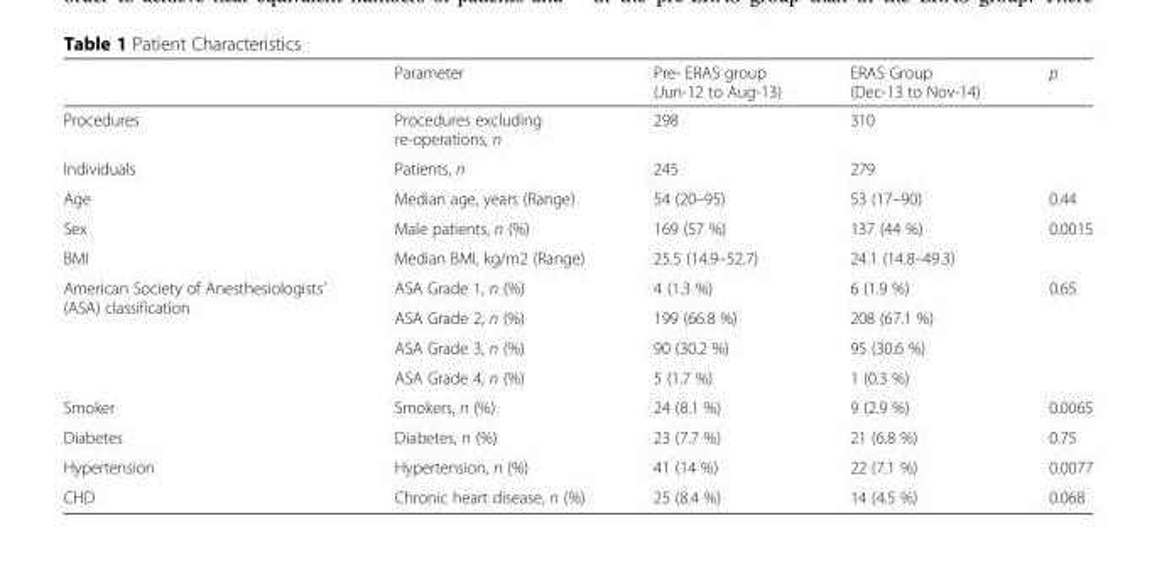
<table><thead><tr><td></td><td>Parameter</td><td>Pre- ERAS group (Jun-12 to Aug-13)</td><td>ERAS Group (Dec-13 to Nov-14)</td><td>p</td></tr></thead><tbody><tr><td>Procedures</td><td>Procedures excluding re-operations, n</td><td>298</td><td>310</td><td></td></tr><tr><td>Individuals</td><td>Patients, n</td><td>245</td><td>279</td><td></td></tr><tr><td>Age</td><td>Median age, years (Range)</td><td>54 (20–95)</td><td>53 (17–90)</td><td>0.44</td></tr><tr><td>Sex</td><td>Male patients, n (%)</td><td>169 (57 %)</td><td>137 (44 %)</td><td>0.0015</td></tr><tr><td>BMI</td><td>Median BMI, kg/m2 (Range)</td><td>25.5 (14.9–52.7)</td><td>24.1 (14.8–49.3)</td><td></td></tr><tr><td rowspan="4">American Society of Anesthesiologists’ (ASA) classification</td><td>ASA Grade 1, n (%)</td><td>4 (1.3 %)</td><td>6 (1.9 %)</td><td rowspan="4">0.65</td></tr><tr><td>ASA Grade 2, n (%)</td><td>199 (66.8 %)</td><td>208 (67.1 %)</td></tr><tr><td>ASA Grade 3, n (%)</td><td>90 (30.2 %)</td><td>95 (30.6 %)</td></tr><tr><td>ASA Grade 4, n (%)</td><td>5 (1.7 %)</td><td>1 (0.3 %)</td></tr><tr><td>Smoker</td><td>Smokers, n (%)</td><td>24 (8.1 %)</td><td>9 (2.9 %)</td><td>0.0065</td></tr><tr><td>Diabetes</td><td>Diabetes, n (%)</td><td>23 (7.7 %)</td><td>21 (6.8 %)</td><td>0.75</td></tr><tr><td>Hypertension</td><td>Hypertension, n (%)</td><td>41 (14 %)</td><td>22 (7.1 %)</td><td>0.0077</td></tr><tr><td>CHD</td><td>Chronic heart disease, n (%)</td><td>25 (8.4 %)</td><td>14 (4.5 %)</td><td>0.068</td></tr></tbody></table>